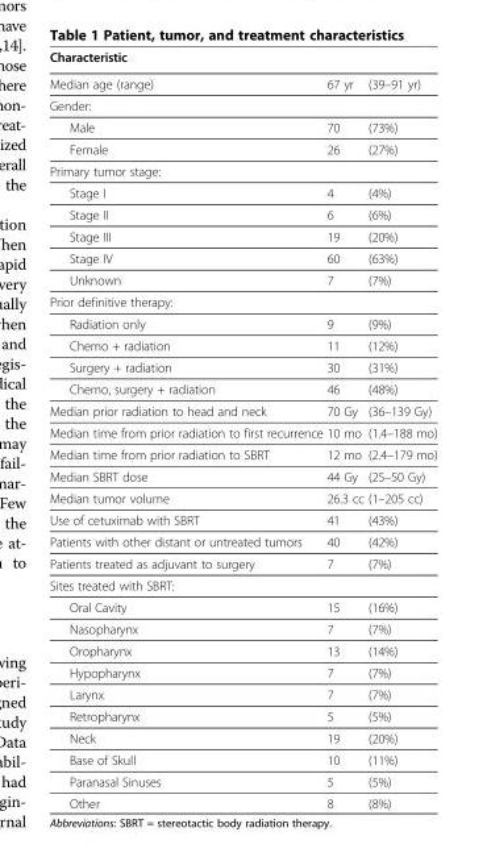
<table><thead><tr><td colspan="3">Characteristic</td></tr><tr><td>Median age (range)</td><td>67 yr</td><td>(39–91 yr)</td></tr></thead><tbody><tr><td colspan="3">Gender:</td></tr><tr><td>Male</td><td>70</td><td>(73%)</td></tr><tr><td>Female</td><td>26</td><td>(27%)</td></tr><tr><td colspan="3">Primary tumor stage:</td></tr><tr><td>Stage I</td><td>4</td><td>(4%)</td></tr><tr><td>Stage II</td><td>6</td><td>(6%)</td></tr><tr><td>Stage III</td><td>19</td><td>(20%)</td></tr><tr><td>Stage IV</td><td>60</td><td>(63%)</td></tr><tr><td>Unknown</td><td>7</td><td>(7%)</td></tr><tr><td colspan="3">Prior definitive therapy:</td></tr><tr><td>Radiation only</td><td>9</td><td>(9%)</td></tr><tr><td>Chemo + radiation</td><td>11</td><td>(12%)</td></tr><tr><td>Surgery + radiation</td><td>30</td><td>(31%)</td></tr><tr><td>Chemo, surgery + radiation</td><td>46</td><td>(48%)</td></tr><tr><td>Median prior radiation to head and neck</td><td>70 Gy</td><td>(36–139 Gy)</td></tr><tr><td>Median time from prior radiation to first recurrence</td><td>10 mo</td><td>(1.4–188 mo)</td></tr><tr><td>Median time from prior radiation to SBRT</td><td>12 mo</td><td>(2.4–179 mo)</td></tr><tr><td>Median SBRT dose</td><td>44 Gy</td><td>(25–50 Gy)</td></tr><tr><td>Median tumor volume</td><td>26.3 cc</td><td>(1–205 cc)</td></tr><tr><td>Use of cetuximab with SBRT</td><td>41</td><td>(43%)</td></tr><tr><td>Patients with other distant or untreated tumors</td><td>40</td><td>(42%)</td></tr><tr><td>Patients treated as adjuvant to surgery</td><td>7</td><td>(7%)</td></tr><tr><td colspan="3">Sites treated with SBRT:</td></tr><tr><td>Oral Cavity</td><td>15</td><td>(16%)</td></tr><tr><td>Nasopharynx</td><td>7</td><td>(7%)</td></tr><tr><td>Oropharynx</td><td>13</td><td>(14%)</td></tr><tr><td>Hypopharynx</td><td>7</td><td>(7%)</td></tr><tr><td>Larynx</td><td>7</td><td>(7%)</td></tr><tr><td>Retropharynx</td><td>5</td><td>(5%)</td></tr><tr><td>Neck</td><td>19</td><td>(20%)</td></tr><tr><td>Base of Skull</td><td>10</td><td>(11%)</td></tr><tr><td>Paranasal Sinuses</td><td>5</td><td>(5%)</td></tr><tr><td>Other</td><td>8</td><td>(8%)</td></tr></tbody></table>